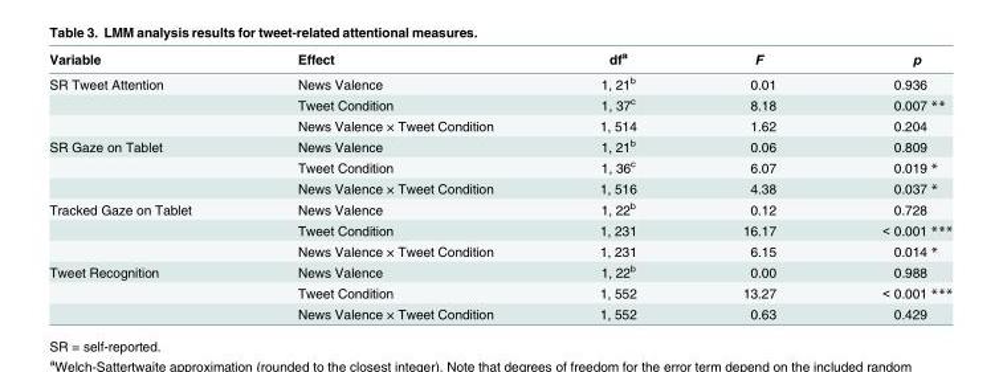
<table><thead><tr><td>Variable</td><td>Effect</td><td>df<sup>a</sup></td><td>F</td><td>p</td></tr></thead><tbody><tr><td rowspan="3">SR Tweet Attention</td><td>News Valence</td><td>1, 21<sup>b</sup></td><td>0.01</td><td>0.936</td></tr><tr><td>Tweet Condition</td><td>1, 37<sup>c</sup></td><td>8.18</td><td>0.007 **</td></tr><tr><td>News Valence × Tweet Condition</td><td>1, 514</td><td>1.62</td><td>0.204</td></tr><tr><td rowspan="3">SR Gaze on Tablet</td><td>News Valence</td><td>1, 21<sup>b</sup></td><td>0.06</td><td>0.809</td></tr><tr><td>Tweet Condition</td><td>1, 36<sup>c</sup></td><td>6.07</td><td>0.019 *</td></tr><tr><td>News Valence × Tweet Condition</td><td>1, 516</td><td>4.38</td><td>0.037 *</td></tr><tr><td rowspan="3">Tracked Gaze on Tablet</td><td>News Valence</td><td>1, 22<sup>b</sup></td><td>0.12</td><td>0.728</td></tr><tr><td>Tweet Condition</td><td>1, 231</td><td>16.17</td><td>&lt; 0.001 ***</td></tr><tr><td>News Valence × Tweet Condition</td><td>1, 231</td><td>6.15</td><td>0.014 *</td></tr><tr><td rowspan="3">Tweet Recognition</td><td>News Valence</td><td>1, 22<sup>b</sup></td><td>0.00</td><td>0.988</td></tr><tr><td>Tweet Condition</td><td>1, 552</td><td>13.27</td><td>&lt; 0.001 ***</td></tr><tr><td>News Valence × Tweet Condition</td><td>1, 552</td><td>0.63</td><td>0.429</td></tr></tbody></table>